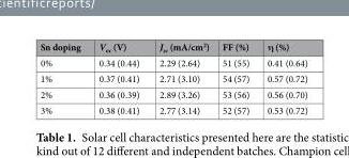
<table><thead><tr><td>Sn doping</td><td>V<sub>oc</sub> (V)</td><td>J<sub>sc</sub> (mA/cm<sup>2</sup>)</td><td>FF (%)</td><td>η (%)</td></tr></thead><tbody><tr><td>0%</td><td>0.34 (0.44)</td><td>2.29 (2.64)</td><td>51 (55)</td><td>0.41 (0.64)</td></tr><tr><td>1%</td><td>0.37 (0.41)</td><td>2.71 (3.10)</td><td>54 (57)</td><td>0.57 (0.72)</td></tr><tr><td>2%</td><td>0.36 (0.39)</td><td>2.89 (3.26)</td><td>53 (56)</td><td>0.56 (0.70)</td></tr><tr><td>3%</td><td>0.38 (0.41)</td><td>2.77 (3.14)</td><td>52 (57)</td><td>0.53 (0.72)</td></tr></tbody></table>